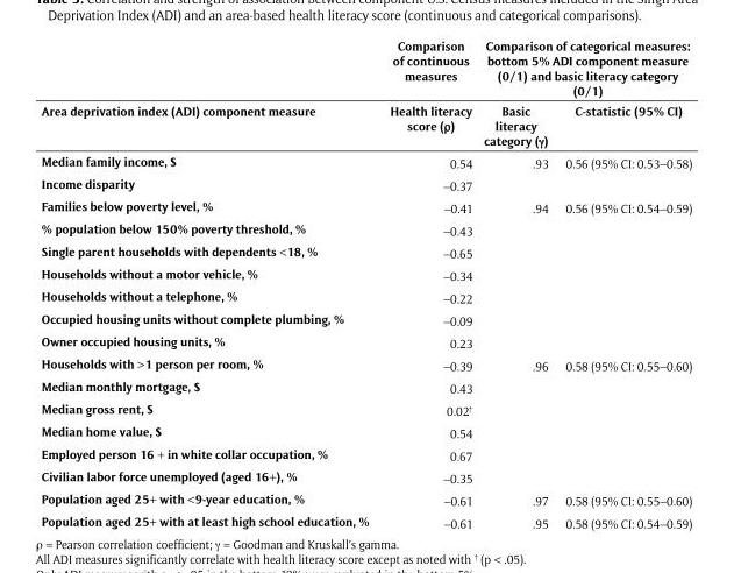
<table><thead><tr><td rowspan="2">Area deprivation index (ADI) component measure</td><td rowspan="2">Comparison of continuous measures Health literacy score (ρ)</td><td colspan="2">Comparison of categorical measures: bottom 5% ADI component measure (0/1) and basic literacy category (0/1)</td></tr><tr><td>Basic literacy category (γ)</td><td>C-statistic (95% CI)</td></tr></thead><tbody><tr><td>Median family income, $</td><td>0.54</td><td>.93</td><td>0.56 (95% CI: 0.53–0.58)</td></tr><tr><td>Income disparity</td><td>–0.37</td><td></td><td></td></tr><tr><td>Families below poverty level, %</td><td>–0.41</td><td>.94</td><td>0.56 (95% CI: 0.54–0.59)</td></tr><tr><td>% population below 150% poverty threshold, %</td><td>–0.43</td><td></td><td></td></tr><tr><td>Single parent households with dependents &lt;18, %</td><td>–0.65</td><td></td><td></td></tr><tr><td>Households without a motor vehicle, %</td><td>–0.34</td><td></td><td></td></tr><tr><td>Households without a telephone, %</td><td>–0.22</td><td></td><td></td></tr><tr><td>Occupied housing units without complete plumbing, %</td><td>–0.09</td><td></td><td></td></tr><tr><td>Owner occupied housing units, %</td><td>0.23</td><td></td><td></td></tr><tr><td>Households with &gt;1 person per room, %</td><td>–0.39</td><td>.96</td><td>0.58 (95% CI: 0.55–0.60)</td></tr><tr><td>Median monthly mortgage, $</td><td>0.43</td><td></td><td></td></tr><tr><td>Median gross rent, $</td><td>0.02<sup>†</sup></td><td></td><td></td></tr><tr><td>Median home value, $</td><td>0.54</td><td></td><td></td></tr><tr><td>Employed person 16 + in white collar occupation, %</td><td>0.67</td><td></td><td></td></tr><tr><td>Civilian labor force unemployed (aged 16+), %</td><td>–0.35</td><td></td><td></td></tr><tr><td>Population aged 25+ with &lt;9-year education, %</td><td>–0.61</td><td>.97</td><td>0.58 (95% CI: 0.55–0.60)</td></tr><tr><td>Population aged 25+ with at least high school education, %</td><td>–0.61</td><td>.95</td><td>0.58 (95% CI: 0.54–0.59)</td></tr></tbody></table>